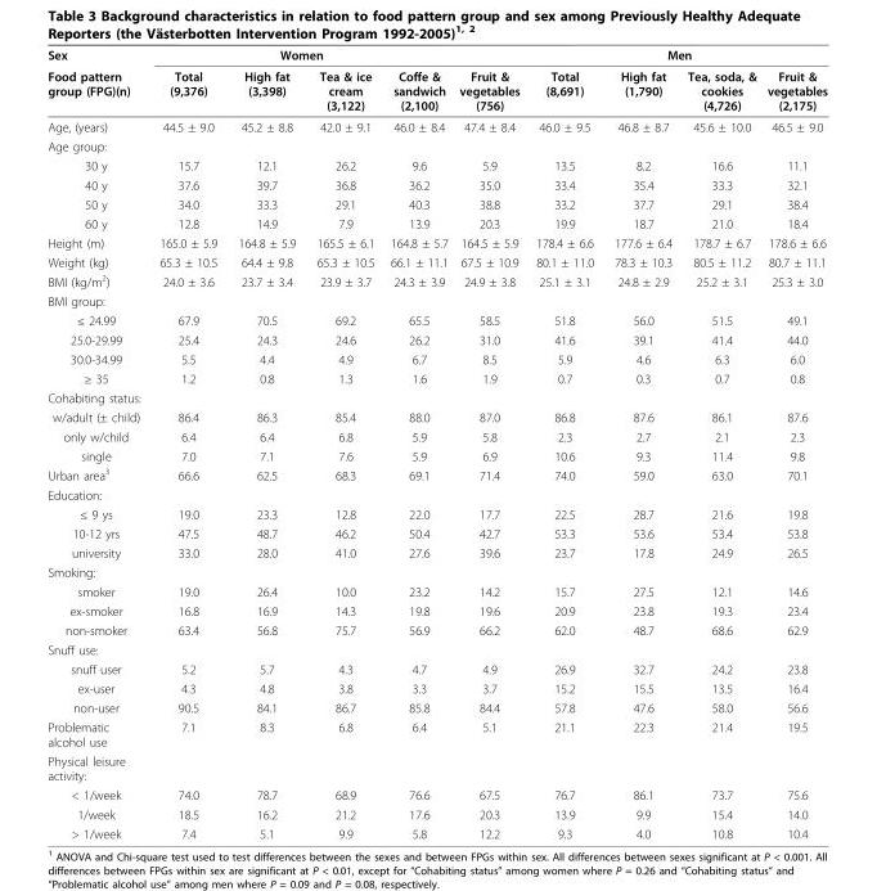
<table><thead><tr><td rowspan="2">Sex Food pattern group (FPG)(n)</td><td colspan="4">Women</td><td rowspan="2">Fruit &amp; vegetables (756)</td><td colspan="4">Men</td></tr><tr><td>Total (9,376)</td><td>High fat (3,398)</td><td>Tea &amp; ice cream (3,122)</td><td>Coffe &amp; sandwich (2,100)</td><td>Total (8,691)</td><td>High fat (1,790)</td><td>Tea, soda, &amp; cookies (4,726)</td><td>Fruit &amp; vegetables (2,175)</td></tr></thead><tbody><tr><td>Age, (years)</td><td>44.5 ± 9.0</td><td>45.2 ± 8.8</td><td>42.0 ± 9.1</td><td>46.0 ± 8.4</td><td>47.4 ± 8.4</td><td>46.0 ± 9.5</td><td>46.8 ± 8.7</td><td>45.6 ± 10.0</td><td>46.5 ± 9.0</td></tr><tr><td colspan="10">Age group:</td></tr><tr><td>30 y</td><td>15.7</td><td>12.1</td><td>26.2</td><td>9.6</td><td>5.9</td><td>13.5</td><td>8.2</td><td>16.6</td><td>11.1</td></tr><tr><td>40 y</td><td>37.6</td><td>39.7</td><td>36.8</td><td>36.2</td><td>35.0</td><td>33.4</td><td>35.4</td><td>33.3</td><td>32.1</td></tr><tr><td>50 y</td><td>34.0</td><td>33.3</td><td>29.1</td><td>40.3</td><td>38.8</td><td>33.2</td><td>37.7</td><td>29.1</td><td>38.4</td></tr><tr><td>60 y</td><td>12.8</td><td>14.9</td><td>7.9</td><td>13.9</td><td>20.3</td><td>19.9</td><td>18.7</td><td>21.0</td><td>18.4</td></tr><tr><td>Height (m)</td><td>165.0 ± 5.9</td><td>164.8 ± 5.9</td><td>165.5 ± 6.1</td><td>164.8 ± 5.7</td><td>164.5 ± 5.9</td><td>178.4 ± 6.6</td><td>177.6 ± 6.4</td><td>178.7 ± 6.7</td><td>178.6 ± 6.6</td></tr><tr><td>Weight (kg)</td><td>65.3 ± 10.5</td><td>64.4 ± 9.8</td><td>65.3 ± 10.5</td><td>66.1 ± 11.1</td><td>67.5 ± 10.9</td><td>80.1 ± 11.0</td><td>78.3 ± 10.3</td><td>80.5 ± 11.2</td><td>80.7 ± 11.1</td></tr><tr><td>BMI (kg/m<sup>2</sup>)</td><td>24.0 ± 3.6</td><td>23.7 ± 3.4</td><td>23.9 ± 3.7</td><td>24.3 ± 3.9</td><td>24.9 ± 3.8</td><td>25.1 ± 3.1</td><td>24.8 ± 2.9</td><td>25.2 ± 3.1</td><td>25.3 ± 3.0</td></tr><tr><td colspan="10">BMI group:</td></tr><tr><td>≤ 24.99</td><td>67.9</td><td>70.5</td><td>69.2</td><td>65.5</td><td>58.5</td><td>51.8</td><td>56.0</td><td>51.5</td><td>49.1</td></tr><tr><td>25.0-29.99</td><td>25.4</td><td>24.3</td><td>24.6</td><td>26.2</td><td>31.0</td><td>41.6</td><td>39.1</td><td>41.4</td><td>44.0</td></tr><tr><td>30.0-34.99</td><td>5.5</td><td>4.4</td><td>4.9</td><td>6.7</td><td>8.5</td><td>5.9</td><td>4.6</td><td>6.3</td><td>6.0</td></tr><tr><td>≥ 35</td><td>1.2</td><td>0.8</td><td>1.3</td><td>1.6</td><td>1.9</td><td>0.7</td><td>0.3</td><td>0.7</td><td>0.8</td></tr><tr><td colspan="10">Cohabiting status:</td></tr><tr><td>w/adult (± child)</td><td>86.4</td><td>86.3</td><td>85.4</td><td>88.0</td><td>87.0</td><td>86.8</td><td>87.6</td><td>86.1</td><td>87.6</td></tr><tr><td>only w/child</td><td>6.4</td><td>6.4</td><td>6.8</td><td>5.9</td><td>5.8</td><td>2.3</td><td>2.7</td><td>2.1</td><td>2.3</td></tr><tr><td>single</td><td>7.0</td><td>7.1</td><td>7.6</td><td>5.9</td><td>6.9</td><td>10.6</td><td>9.3</td><td>11.4</td><td>9.8</td></tr><tr><td>Urban area<sup>3</sup></td><td>66.6</td><td>62.5</td><td>68.3</td><td>69.1</td><td>71.4</td><td>74.0</td><td>59.0</td><td>63.0</td><td>70.1</td></tr><tr><td colspan="10">Education:</td></tr><tr><td>≤ 9 ys</td><td>19.0</td><td>23.3</td><td>12.8</td><td>22.0</td><td>17.7</td><td>22.5</td><td>28.7</td><td>21.6</td><td>19.8</td></tr><tr><td>10-12 yrs</td><td>47.5</td><td>48.7</td><td>46.2</td><td>50.4</td><td>42.7</td><td>53.3</td><td>53.6</td><td>53.4</td><td>53.8</td></tr><tr><td>university</td><td>33.0</td><td>28.0</td><td>41.0</td><td>27.6</td><td>39.6</td><td>23.7</td><td>17.8</td><td>24.9</td><td>26.5</td></tr><tr><td colspan="10">Smoking:</td></tr><tr><td>smoker</td><td>19.0</td><td>26.4</td><td>10.0</td><td>23.2</td><td>14.2</td><td>15.7</td><td>27.5</td><td>12.1</td><td>14.6</td></tr><tr><td>ex-smoker</td><td>16.8</td><td>16.9</td><td>14.3</td><td>19.8</td><td>19.6</td><td>20.9</td><td>23.8</td><td>19.3</td><td>23.4</td></tr><tr><td>non-smoker</td><td>63.4</td><td>56.8</td><td>75.7</td><td>56.9</td><td>66.2</td><td>62.0</td><td>48.7</td><td>68.6</td><td>62.9</td></tr><tr><td colspan="10">Snuff use:</td></tr><tr><td>snuff user</td><td>5.2</td><td>5.7</td><td>4.3</td><td>4.7</td><td>4.9</td><td>26.9</td><td>32.7</td><td>24.2</td><td>23.8</td></tr><tr><td>ex-user</td><td>4.3</td><td>4.8</td><td>3.8</td><td>3.3</td><td>3.7</td><td>15.2</td><td>15.5</td><td>13.5</td><td>16.4</td></tr><tr><td>non-user</td><td>90.5</td><td>84.1</td><td>86.7</td><td>85.8</td><td>84.4</td><td>57.8</td><td>47.6</td><td>58.0</td><td>56.6</td></tr><tr><td>Problematic alcohol use</td><td>7.1</td><td>8.3</td><td>6.8</td><td>6.4</td><td>5.1</td><td>21.1</td><td>22.3</td><td>21.4</td><td>19.5</td></tr><tr><td colspan="10">Physical leisure activity:</td></tr><tr><td>&lt; 1/week</td><td>74.0</td><td>78.7</td><td>68.9</td><td>76.6</td><td>67.5</td><td>76.7</td><td>86.1</td><td>73.7</td><td>75.6</td></tr><tr><td>1/week</td><td>18.5</td><td>16.2</td><td>21.2</td><td>17.6</td><td>20.3</td><td>13.9</td><td>9.9</td><td>15.4</td><td>14.0</td></tr><tr><td>&gt; 1/week</td><td>7.4</td><td>5.1</td><td>9.9</td><td>5.8</td><td>12.2</td><td>9.3</td><td>4.0</td><td>10.8</td><td>10.4</td></tr></tbody></table>